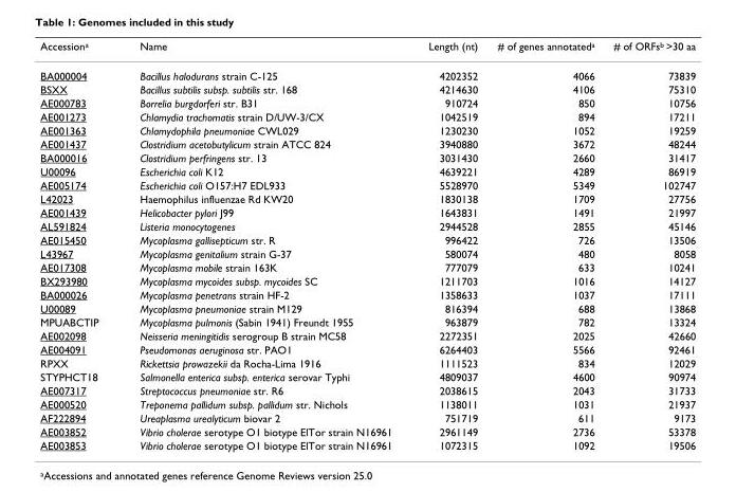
<table><thead><tr><td>Accessiona</td><td>Name</td><td>Length (nt)</td><td># of genes annotateda</td><td># of ORFsb &gt;30 aa</td></tr></thead><tbody><tr><td>BA000004</td><td>Bacillus halodurans strain C-125</td><td>4202352</td><td>4066</td><td>73839</td></tr><tr><td>BSXX</td><td>Bacillus subtilis subsp. subtilis str. 168</td><td>4214630</td><td>4106</td><td>75310</td></tr><tr><td>AE000783</td><td>Borrelia burgdorferi str. B31</td><td>910724</td><td>850</td><td>10756</td></tr><tr><td>AE001273</td><td>Chlamydia trachomatis strain D/UW-3/CX</td><td>1042519</td><td>894</td><td>17211</td></tr><tr><td>AE001363</td><td>Chlamydophila pneumoniae CWL029</td><td>1230230</td><td>1052</td><td>19259</td></tr><tr><td>AE001437</td><td>Clostridium acetobutylicum strain ATCC 824</td><td>3940880</td><td>3672</td><td>48244</td></tr><tr><td>BA000016</td><td>Clostridium perfringens str. 13</td><td>3031430</td><td>2660</td><td>31417</td></tr><tr><td>U00096</td><td>Escherichia coli K12</td><td>4639221</td><td>4289</td><td>86919</td></tr><tr><td>AE005174</td><td>Escherichia coli O157:H7 EDL933</td><td>5528970</td><td>5349</td><td>102747</td></tr><tr><td>L42023</td><td>Haemophilus influenzae Rd KW20</td><td>1830138</td><td>1709</td><td>27756</td></tr><tr><td>AE001439</td><td>Helicobacter pylori J99</td><td>1643831</td><td>1491</td><td>21997</td></tr><tr><td>AL591824</td><td>Listeria monocytogenes</td><td>2944528</td><td>2855</td><td>45146</td></tr><tr><td>AE015450</td><td>Mycoplasma gallisepticum str. R</td><td>996422</td><td>726</td><td>13506</td></tr><tr><td>L43967</td><td>Mycoplasma genitalium strain G-37</td><td>580074</td><td>480</td><td>8058</td></tr><tr><td>AE017308</td><td>Mycoplasma mobile strain 163K</td><td>777079</td><td>633</td><td>10241</td></tr><tr><td>BX293980</td><td>Mycoplasma mycoides subsp. mycoides SC</td><td>1211703</td><td>1016</td><td>14127</td></tr><tr><td>BA000026</td><td>Mycoplasma penetrans strain HF-2</td><td>1358633</td><td>1037</td><td>17111</td></tr><tr><td>U00089</td><td>Mycoplasma pneumoniae strain M129</td><td>816394</td><td>688</td><td>13868</td></tr><tr><td>MPUABCTIP</td><td>Mycoplasma pulmonis (Sabin 1941) Freundt 1955</td><td>963879</td><td>782</td><td>13324</td></tr><tr><td>AE002098</td><td>Neisseria meningitidis serogroup B strain MC58</td><td>2272351</td><td>2025</td><td>42660</td></tr><tr><td>AE004091</td><td>Pseudomonas aeruginosa str. PAO1</td><td>6264403</td><td>5566</td><td>92461</td></tr><tr><td>RPXX</td><td>Rickettsia prowazekii da Rocha-Lima 1916</td><td>1111523</td><td>834</td><td>12029</td></tr><tr><td>STYPHCT18</td><td>Salmonella enterica subsp. enterica serovar Typhi</td><td>4809037</td><td>4600</td><td>90974</td></tr><tr><td>AE007317</td><td>Streptococcus pneumoniae str. R6</td><td>2038615</td><td>2043</td><td>31733</td></tr><tr><td>AE000520</td><td>Treponema pallidum subsp. pallidum str. Nichols</td><td>1138011</td><td>1031</td><td>21937</td></tr><tr><td>AF222894</td><td>Ureaplasma urealyticum biovar 2</td><td>751719</td><td>611</td><td>9173</td></tr><tr><td>AE003852</td><td>Vibrio cholerae serotype O1 biotype ElTor strain N16961</td><td>2961149</td><td>2736</td><td>53378</td></tr><tr><td>AE003853</td><td>Vibrio cholerae serotype O1 biotype ElTor strain N16961</td><td>1072315</td><td>1092</td><td>19506</td></tr></tbody></table>